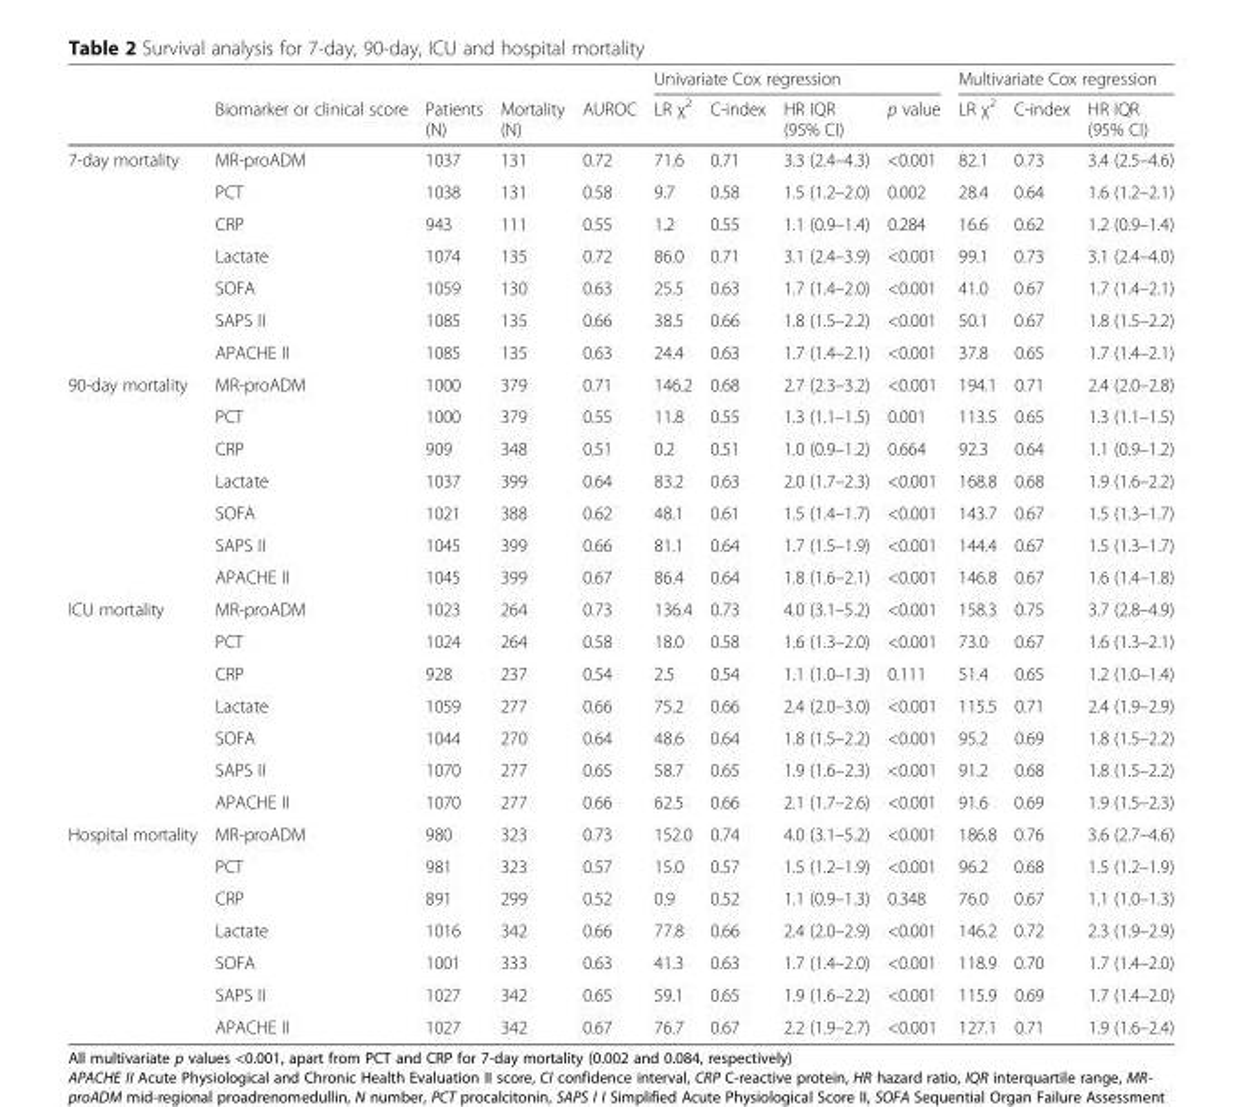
<table><thead><tr><td rowspan="2"></td><td rowspan="2">Biomarker or clinical score</td><td rowspan="2">Patients (N)</td><td rowspan="2">Mortality (N)</td><td rowspan="2">AUROC</td><td colspan="4">Univariate Cox regression</td><td colspan="3">Multivariate Cox regression</td></tr><tr><td>LR χ<sup>2</sup></td><td>C-index</td><td>HR IQR (95% CI)</td><td>p value</td><td>LR χ<sup>2</sup></td><td>C-index</td><td>HR IQR (95% CI)</td></tr></thead><tbody><tr><td rowspan="7">7-day mortality</td><td>MR-proADM</td><td>1037</td><td>131</td><td>0.72</td><td>71.6</td><td>0.71</td><td>3.3 (2.4–4.3)</td><td>&lt;0.001</td><td>82.1</td><td>0.73</td><td>3.4 (2.5–4.6)</td></tr><tr><td>PCT</td><td>1038</td><td>131</td><td>0.58</td><td>9.7</td><td>0.58</td><td>1.5 (1.2–2.0)</td><td>0.002</td><td>28.4</td><td>0.64</td><td>1.6 (1.2–2.1)</td></tr><tr><td>CRP</td><td>943</td><td>111</td><td>0.55</td><td>1.2</td><td>0.55</td><td>1.1 (0.9–1.4)</td><td>0.284</td><td>16.6</td><td>0.62</td><td>1.2 (0.9–1.4)</td></tr><tr><td>Lactate</td><td>1074</td><td>135</td><td>0.72</td><td>86.0</td><td>0.71</td><td>3.1 (2.4–3.9)</td><td>&lt;0.001</td><td>99.1</td><td>0.73</td><td>3.1 (2.4–4.0)</td></tr><tr><td>SOFA</td><td>1059</td><td>130</td><td>0.63</td><td>25.5</td><td>0.63</td><td>1.7 (1.4–2.0)</td><td>&lt;0.001</td><td>41.0</td><td>0.67</td><td>1.7 (1.4–2.1)</td></tr><tr><td>SAPS II</td><td>1085</td><td>135</td><td>0.66</td><td>38.5</td><td>0.66</td><td>1.8 (1.5–2.2)</td><td>&lt;0.001</td><td>50.1</td><td>0.67</td><td>1.8 (1.5–2.2)</td></tr><tr><td>APACHE II</td><td>1085</td><td>135</td><td>0.63</td><td>24.4</td><td>0.63</td><td>1.7 (1.4–2.1)</td><td>&lt;0.001</td><td>37.8</td><td>0.65</td><td>1.7 (1.4–2.1)</td></tr><tr><td rowspan="7">90-day mortality</td><td>MR-proADM</td><td>1000</td><td>379</td><td>0.71</td><td>146.2</td><td>0.68</td><td>2.7 (2.3–3.2)</td><td>&lt;0.001</td><td>194.1</td><td>0.71</td><td>2.4 (2.0–2.8)</td></tr><tr><td>PCT</td><td>1000</td><td>379</td><td>0.55</td><td>11.8</td><td>0.55</td><td>1.3 (1.1–1.5)</td><td>0.001</td><td>113.5</td><td>0.65</td><td>1.3 (1.1–1.5)</td></tr><tr><td>CRP</td><td>909</td><td>348</td><td>0.51</td><td>0.2</td><td>0.51</td><td>1.0 (0.9–1.2)</td><td>0.664</td><td>92.3</td><td>0.64</td><td>1.1 (0.9–1.2)</td></tr><tr><td>Lactate</td><td>1037</td><td>399</td><td>0.64</td><td>83.2</td><td>0.63</td><td>2.0 (1.7–2.3)</td><td>&lt;0.001</td><td>168.8</td><td>0.68</td><td>1.9 (1.6–2.2)</td></tr><tr><td>SOFA</td><td>1021</td><td>388</td><td>0.62</td><td>48.1</td><td>0.61</td><td>1.5 (1.4–1.7)</td><td>&lt;0.001</td><td>143.7</td><td>0.67</td><td>1.5 (1.3–1.7)</td></tr><tr><td>SAPS II</td><td>1045</td><td>399</td><td>0.66</td><td>81.1</td><td>0.64</td><td>1.7 (1.5–1.9)</td><td>&lt;0.001</td><td>144.4</td><td>0.67</td><td>1.5 (1.3–1.7)</td></tr><tr><td>APACHE II</td><td>1045</td><td>399</td><td>0.67</td><td>86.4</td><td>0.64</td><td>1.8 (1.6–2.1)</td><td>&lt;0.001</td><td>146.8</td><td>0.67</td><td>1.6 (1.4–1.8)</td></tr><tr><td rowspan="7">ICU mortality</td><td>MR-proADM</td><td>1023</td><td>264</td><td>0.73</td><td>136.4</td><td>0.73</td><td>4.0 (3.1–5.2)</td><td>&lt;0.001</td><td>158.3</td><td>0.75</td><td>3.7 (2.8–4.9)</td></tr><tr><td>PCT</td><td>1024</td><td>264</td><td>0.58</td><td>18.0</td><td>0.58</td><td>1.6 (1.3–2.0)</td><td>&lt;0.001</td><td>73.0</td><td>0.67</td><td>1.6 (1.3–2.1)</td></tr><tr><td>CRP</td><td>928</td><td>237</td><td>0.54</td><td>2.5</td><td>0.54</td><td>1.1 (1.0–1.3)</td><td>0.111</td><td>51.4</td><td>0.65</td><td>1.2 (1.0–1.4)</td></tr><tr><td>Lactate</td><td>1059</td><td>277</td><td>0.66</td><td>75.2</td><td>0.66</td><td>2.4 (2.0–3.0)</td><td>&lt;0.001</td><td>115.5</td><td>0.71</td><td>2.4 (1.9–2.9)</td></tr><tr><td>SOFA</td><td>1044</td><td>270</td><td>0.64</td><td>48.6</td><td>0.64</td><td>1.8 (1.5–2.2)</td><td>&lt;0.001</td><td>95.2</td><td>0.69</td><td>1.8 (1.5–2.2)</td></tr><tr><td>SAPS II</td><td>1070</td><td>277</td><td>0.65</td><td>58.7</td><td>0.65</td><td>1.9 (1.6–2.3)</td><td>&lt;0.001</td><td>91.2</td><td>0.68</td><td>1.8 (1.5–2.2)</td></tr><tr><td>APACHE II</td><td>1070</td><td>277</td><td>0.66</td><td>62.5</td><td>0.66</td><td>2.1 (1.7–2.6)</td><td>&lt;0.001</td><td>91.6</td><td>0.69</td><td>1.9 (1.5–2.3)</td></tr><tr><td rowspan="7">Hospital mortality</td><td>MR-proADM</td><td>980</td><td>323</td><td>0.73</td><td>152.0</td><td>0.74</td><td>4.0 (3.1–5.2)</td><td>&lt;0.001</td><td>186.8</td><td>0.76</td><td>3.6 (2.7–4.6)</td></tr><tr><td>PCT</td><td>981</td><td>323</td><td>0.57</td><td>15.0</td><td>0.57</td><td>1.5 (1.2–1.9)</td><td>&lt;0.001</td><td>96.2</td><td>0.68</td><td>1.5 (1.2–1.9)</td></tr><tr><td>CRP</td><td>891</td><td>299</td><td>0.52</td><td>0.9</td><td>0.52</td><td>1.1 (0.9–1.3)</td><td>0.348</td><td>76.0</td><td>0.67</td><td>1.1 (1.0–1.3)</td></tr><tr><td>Lactate</td><td>1016</td><td>342</td><td>0.66</td><td>77.8</td><td>0.66</td><td>2.4 (2.0–2.9)</td><td>&lt;0.001</td><td>146.2</td><td>0.72</td><td>2.3 (1.9–2.9)</td></tr><tr><td>SOFA</td><td>1001</td><td>333</td><td>0.63</td><td>41.3</td><td>0.63</td><td>1.7 (1.4–2.0)</td><td>&lt;0.001</td><td>118.9</td><td>0.70</td><td>1.7 (1.4–2.0)</td></tr><tr><td>SAPS II</td><td>1027</td><td>342</td><td>0.65</td><td>59.1</td><td>0.65</td><td>1.9 (1.6–2.2)</td><td>&lt;0.001</td><td>115.9</td><td>0.69</td><td>1.7 (1.4–2.0)</td></tr><tr><td>APACHE II</td><td>1027</td><td>342</td><td>0.67</td><td>76.7</td><td>0.67</td><td>2.2 (1.9–2.7)</td><td>&lt;0.001</td><td>127.1</td><td>0.71</td><td>1.9 (1.6–2.4)</td></tr></tbody></table>